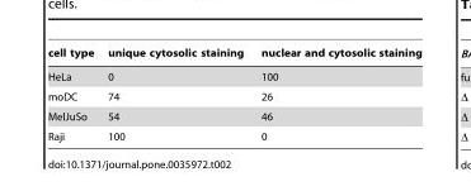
<table><thead><tr><td>cell type</td><td>unique cytosolic staining</td><td>nuclear and cytosolic staining</td></tr></thead><tbody><tr><td>HeLa</td><td>0</td><td>100</td></tr><tr><td>moDC</td><td>74</td><td>26</td></tr><tr><td>MelJuSo</td><td>54</td><td>46</td></tr><tr><td>Raji</td><td>100</td><td>0</td></tr></tbody></table>